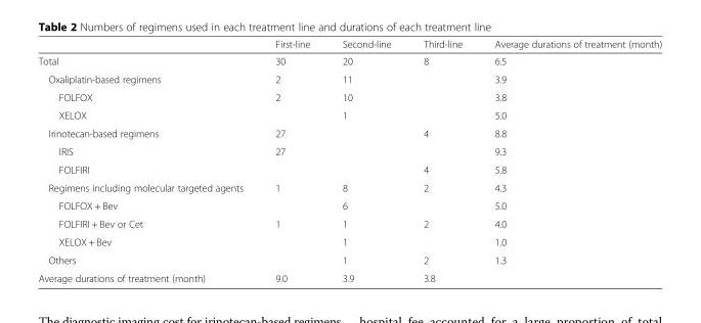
<table><thead><tr><td></td><td>First-line</td><td>Second-line</td><td>Third-line</td><td>Average durations of treatment (month)</td></tr></thead><tbody><tr><td>Total</td><td>30</td><td>20</td><td>8</td><td>6.5</td></tr><tr><td>Oxaliplatin-based regimens</td><td>2</td><td>11</td><td></td><td>3.9</td></tr><tr><td>FOLFOX</td><td>2</td><td>10</td><td></td><td>3.8</td></tr><tr><td>XELOX</td><td></td><td>1</td><td></td><td>5.0</td></tr><tr><td>Irinotecan-based regimens</td><td>27</td><td></td><td>4</td><td>8.8</td></tr><tr><td>IRIS</td><td>27</td><td></td><td></td><td>9.3</td></tr><tr><td>FOLFIRI</td><td></td><td></td><td>4</td><td>5.8</td></tr><tr><td>Regimens including molecular targeted agents</td><td>1</td><td>8</td><td>2</td><td>4.3</td></tr><tr><td>FOLFOX + Bev</td><td></td><td>6</td><td></td><td>5.0</td></tr><tr><td>FOLFIRI + Bev or Cet</td><td>1</td><td>1</td><td>2</td><td>4.0</td></tr><tr><td>XELOX + Bev</td><td></td><td>1</td><td></td><td>1.0</td></tr><tr><td>Others</td><td></td><td>1</td><td>2</td><td>1.3</td></tr><tr><td>Average durations of treatment (month)</td><td>9.0</td><td>3.9</td><td>3.8</td><td></td></tr></tbody></table>